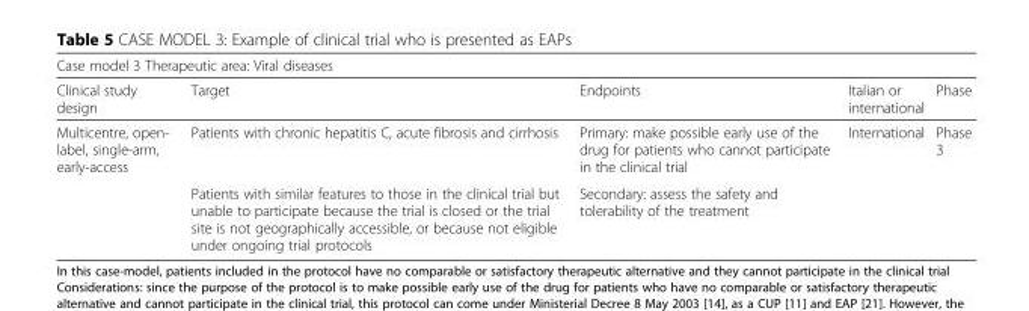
<table><thead><tr><td colspan="5">Case model 3 Therapeutic area: Viral diseases</td></tr><tr><td>Clinical study design</td><td>Target</td><td>Endpoints</td><td>Italian or international</td><td>Phase</td></tr></thead><tbody><tr><td rowspan="2">Multicentre, open- label, single-arm, early-access</td><td>Patients with chronic hepatitis C, acute fibrosis and cirrhosis</td><td>Primary: make possible early use of the drug for patients who cannot participate in the clinical trial</td><td rowspan="2">International</td><td rowspan="2">Phase 3</td></tr><tr><td>Patients with similar features to those in the clinical trial but unable to participate because the trial is closed or the trial site is not geographically accessible, or because not eligible under ongoing trial protocols</td><td>Secondary: assess the safety and tolerability of the treatment</td></tr></tbody></table>